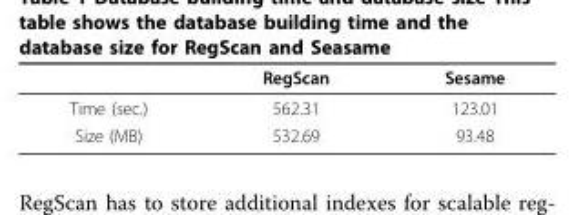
<table><thead><tr><td></td><td>RegScan</td><td>Sesame</td></tr></thead><tbody><tr><td>Time (sec.)</td><td>562.31</td><td>123.01</td></tr><tr><td>Size (MB)</td><td>532.69</td><td>93.48</td></tr></tbody></table>